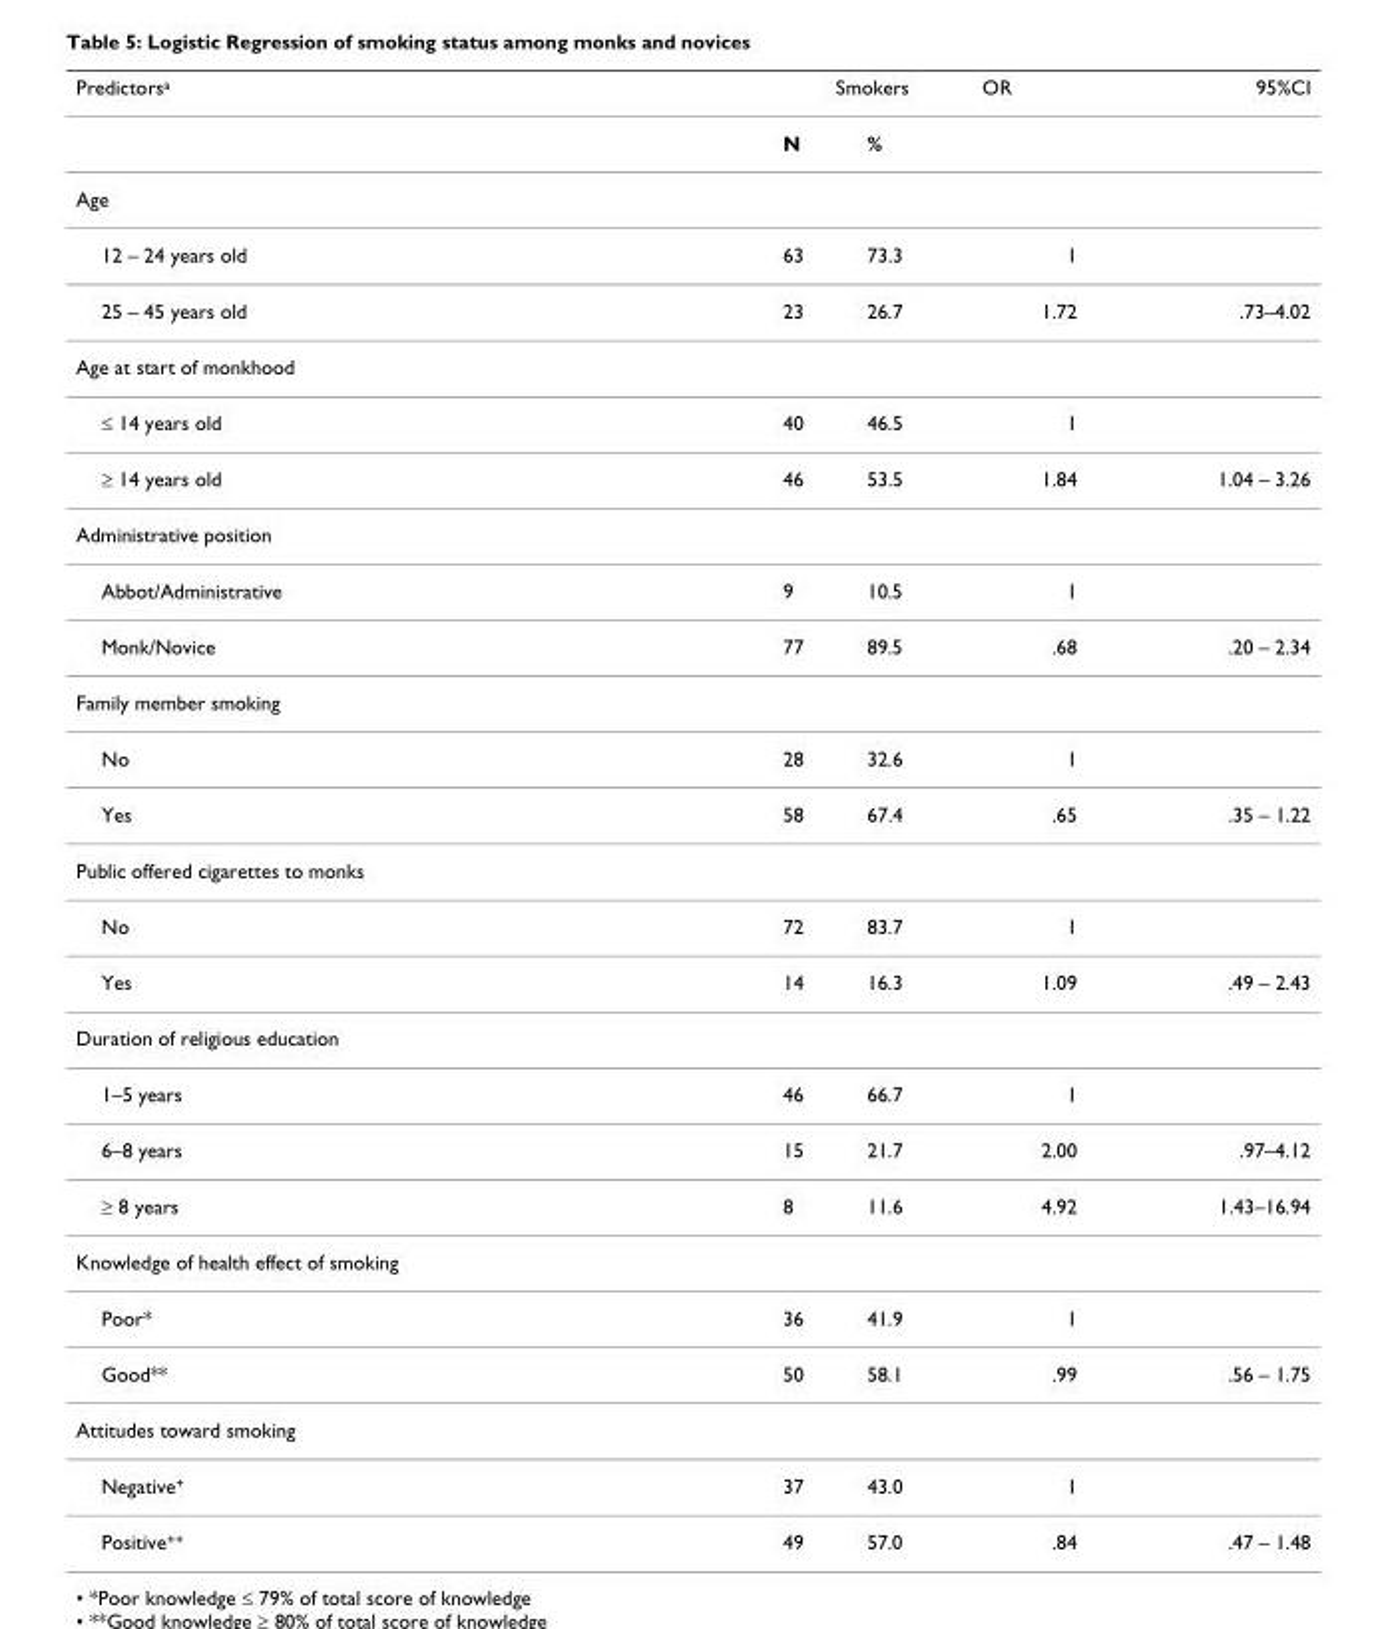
<table><thead><tr><td rowspan="2">Predictorsa</td><td colspan="2">Smokers</td><td rowspan="2">OR</td><td rowspan="2">95%CI</td></tr><tr><td>N</td><td>%</td></tr></thead><tbody><tr><td colspan="5">Age</td></tr><tr><td>12 – 24 years old</td><td>63</td><td>73.3</td><td>1</td><td></td></tr><tr><td>25 – 45 years old</td><td>23</td><td>26.7</td><td>1.72</td><td>.73–4.02</td></tr><tr><td colspan="5">Age at start of monkhood</td></tr><tr><td>≤ 14 years old</td><td>40</td><td>46.5</td><td>1</td><td></td></tr><tr><td>≥ 14 years old</td><td>46</td><td>53.5</td><td>1.84</td><td>1.04 – 3.26</td></tr><tr><td colspan="5">Administrative position</td></tr><tr><td>Abbot/Administrative</td><td>9</td><td>10.5</td><td>1</td><td></td></tr><tr><td>Monk/Novice</td><td>77</td><td>89.5</td><td>.68</td><td>.20 – 2.34</td></tr><tr><td colspan="5">Family member smoking</td></tr><tr><td>No</td><td>28</td><td>32.6</td><td>1</td><td></td></tr><tr><td>Yes</td><td>58</td><td>67.4</td><td>.65</td><td>.35 – 1.22</td></tr><tr><td colspan="5">Public offered cigarettes to monks</td></tr><tr><td>No</td><td>72</td><td>83.7</td><td>1</td><td></td></tr><tr><td>Yes</td><td>14</td><td>16.3</td><td>1.09</td><td>.49 – 2.43</td></tr><tr><td colspan="5">Duration of religious education</td></tr><tr><td>1–5 years</td><td>46</td><td>66.7</td><td>1</td><td></td></tr><tr><td>6–8 years</td><td>15</td><td>21.7</td><td>2.00</td><td>.97–4.12</td></tr><tr><td>≥ 8 years</td><td>8</td><td>11.6</td><td>4.92</td><td>1.43–16.94</td></tr><tr><td colspan="5">Knowledge of health effect of smoking</td></tr><tr><td>Poor*</td><td>36</td><td>41.9</td><td>1</td><td></td></tr><tr><td>Good**</td><td>50</td><td>58.1</td><td>.99</td><td>.56 – 1.75</td></tr><tr><td colspan="5">Attitudes toward smoking</td></tr><tr><td>Negative+</td><td>37</td><td>43.0</td><td>1</td><td></td></tr><tr><td>Positive++</td><td>49</td><td>57.0</td><td>.84</td><td>.47 – 1.48</td></tr></tbody></table>